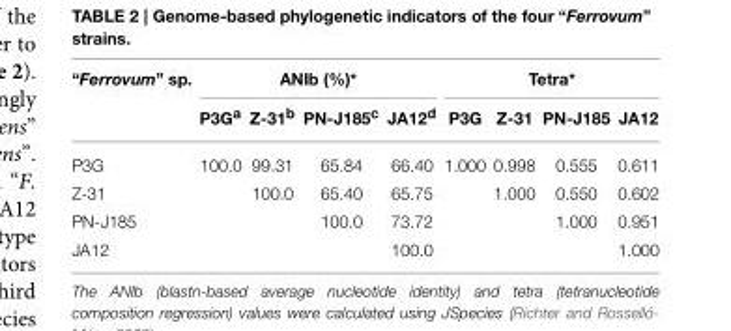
<table><thead><tr><td rowspan="2">“Ferrovum” sp.</td><td colspan="4">ANIb (%)*</td><td colspan="4">Tetra*</td></tr><tr><td>P3G<sup>a</sup></td><td>Z-31<sup>b</sup></td><td>PN-J185<sup>c</sup></td><td>JA12<sup>d</sup></td><td>P3G</td><td>Z-31</td><td>PN-J185</td><td>JA12</td></tr></thead><tbody><tr><td>P3G</td><td>100.0</td><td>99.31</td><td>65.84</td><td>66.40</td><td>1.000</td><td>0.998</td><td>0.555</td><td>0.611</td></tr><tr><td>Z-31</td><td></td><td>100.0</td><td>65.40</td><td>65.75</td><td></td><td>1.000</td><td>0.550</td><td>0.602</td></tr><tr><td>PN-J185</td><td></td><td></td><td>100.0</td><td>73.72</td><td></td><td></td><td>1.000</td><td>0.951</td></tr><tr><td>JA12</td><td></td><td></td><td></td><td>100.0</td><td></td><td></td><td></td><td>1.000</td></tr></tbody></table>